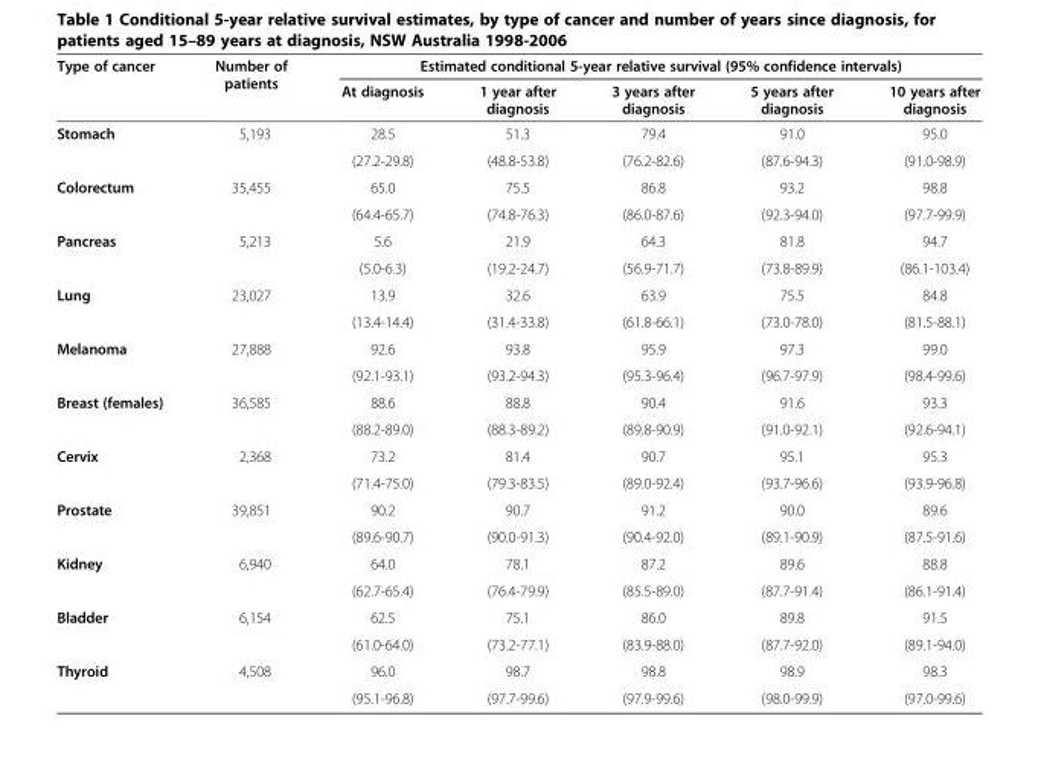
<table><thead><tr><td rowspan="2">Type of cancer</td><td rowspan="2">Number of patients</td><td colspan="5">Estimated conditional 5-year relative survival (95% confidence intervals)</td></tr><tr><td>At diagnosis</td><td>1 year after diagnosis</td><td>3 years after diagnosis</td><td>5 years after diagnosis</td><td>10 years after diagnosis</td></tr></thead><tbody><tr><td rowspan="2">Stomach</td><td>5,193</td><td>28.5</td><td>51.3</td><td>79.4</td><td>91.0</td><td>95.0</td></tr><tr><td></td><td>(27.2-29.8)</td><td>(48.8-53.8)</td><td>(76.2-82.6)</td><td>(87.6-94.3)</td><td>(91.0-98.9)</td></tr><tr><td rowspan="2">Colorectum</td><td>35,455</td><td>65.0</td><td>75.5</td><td>86.8</td><td>93.2</td><td>98.8</td></tr><tr><td></td><td>(64.4-65.7)</td><td>(74.8-76.3)</td><td>(86.0-87.6)</td><td>(92.3-94.0)</td><td>(97.7-99.9)</td></tr><tr><td rowspan="2">Pancreas</td><td>5,213</td><td>5.6</td><td>21.9</td><td>64.3</td><td>81.8</td><td>94.7</td></tr><tr><td></td><td>(5.0-6.3)</td><td>(19.2-24.7)</td><td>(56.9-71.7)</td><td>(73.8-89.9)</td><td>(86.1-103.4)</td></tr><tr><td rowspan="2">Lung</td><td>23,027</td><td>13.9</td><td>32.6</td><td>63.9</td><td>75.5</td><td>84.8</td></tr><tr><td></td><td>(13.4-14.4)</td><td>(31.4-33.8)</td><td>(61.8-66.1)</td><td>(73.0-78.0)</td><td>(81.5-88.1)</td></tr><tr><td rowspan="2">Melanoma</td><td>27,888</td><td>92.6</td><td>93.8</td><td>95.9</td><td>97.3</td><td>99.0</td></tr><tr><td></td><td>(92.1-93.1)</td><td>(93.2-94.3)</td><td>(95.3-96.4)</td><td>(96.7-97.9)</td><td>(98.4-99.6)</td></tr><tr><td rowspan="2">Breast (females)</td><td>36,585</td><td>88.6</td><td>88.8</td><td>90.4</td><td>91.6</td><td>93.3</td></tr><tr><td></td><td>(88.2-89.0)</td><td>(88.3-89.2)</td><td>(89.8-90.9)</td><td>(91.0-92.1)</td><td>(92.6-94.1)</td></tr><tr><td rowspan="2">Cervix</td><td>2,368</td><td>73.2</td><td>81.4</td><td>90.7</td><td>95.1</td><td>95.3</td></tr><tr><td></td><td>(71.4-75.0)</td><td>(79.3-83.5)</td><td>(89.0-92.4)</td><td>(93.7-96.6)</td><td>(93.9-96.8)</td></tr><tr><td rowspan="2">Prostate</td><td>39,851</td><td>90.2</td><td>90.7</td><td>91.2</td><td>90.0</td><td>89.6</td></tr><tr><td></td><td>(89.6-90.7)</td><td>(90.0-91.3)</td><td>(90.4-92.0)</td><td>(89.1-90.9)</td><td>(87.5-91.6)</td></tr><tr><td rowspan="2">Kidney</td><td>6,940</td><td>64.0</td><td>78.1</td><td>87.2</td><td>89.6</td><td>88.8</td></tr><tr><td></td><td>(62.7-65.4)</td><td>(76.4-79.9)</td><td>(85.5-89.0)</td><td>(87.7-91.4)</td><td>(86.1-91.4)</td></tr><tr><td rowspan="2">Bladder</td><td>6,154</td><td>62.5</td><td>75.1</td><td>86.0</td><td>89.8</td><td>91.5</td></tr><tr><td></td><td>(61.0-64.0)</td><td>(73.2-77.1)</td><td>(83.9-88.0)</td><td>(87.7-92.0)</td><td>(89.1-94.0)</td></tr><tr><td rowspan="2">Thyroid</td><td>4,508</td><td>96.0</td><td>98.7</td><td>98.8</td><td>98.9</td><td>98.3</td></tr><tr><td></td><td>(95.1-96.8)</td><td>(97.7-99.6)</td><td>(97.9-99.6)</td><td>(98.0-99.9)</td><td>(97.0-99.6)</td></tr></tbody></table>